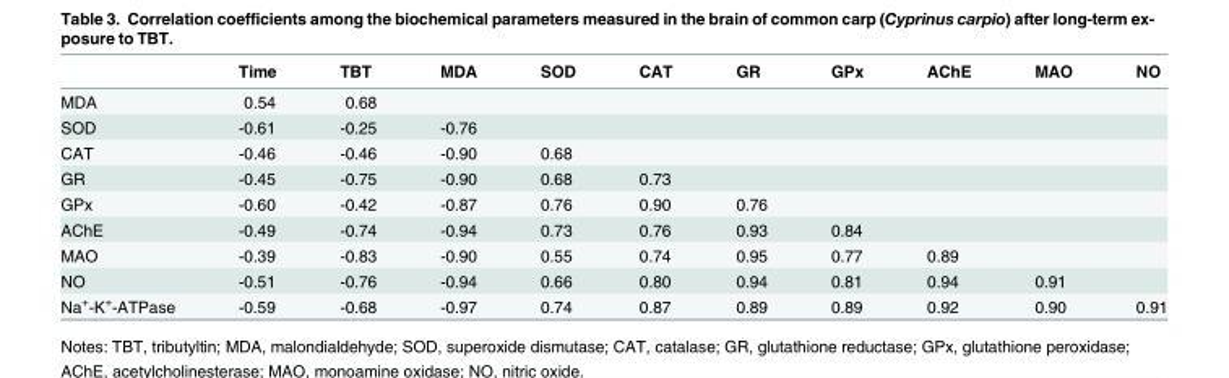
<table><thead><tr><td></td><td>Time</td><td>TBT</td><td>MDA</td><td>SOD</td><td>CAT</td><td>GR</td><td>GPx</td><td>AChE</td><td>MAO</td><td>NO</td></tr></thead><tbody><tr><td>MDA</td><td>0.54</td><td>0.68</td><td></td><td></td><td></td><td></td><td></td><td></td><td></td><td></td></tr><tr><td>SOD</td><td>-0.61</td><td>-0.25</td><td>-0.76</td><td></td><td></td><td></td><td></td><td></td><td></td><td></td></tr><tr><td>CAT</td><td>-0.46</td><td>-0.46</td><td>-0.90</td><td>0.68</td><td></td><td></td><td></td><td></td><td></td><td></td></tr><tr><td>GR</td><td>-0.45</td><td>-0.75</td><td>-0.90</td><td>0.68</td><td>0.73</td><td></td><td></td><td></td><td></td><td></td></tr><tr><td>GPx</td><td>-0.60</td><td>-0.42</td><td>-0.87</td><td>0.76</td><td>0.90</td><td>0.76</td><td></td><td></td><td></td><td></td></tr><tr><td>AChE</td><td>-0.49</td><td>-0.74</td><td>-0.94</td><td>0.73</td><td>0.76</td><td>0.93</td><td>0.84</td><td></td><td></td><td></td></tr><tr><td>MAO</td><td>-0.39</td><td>-0.83</td><td>-0.90</td><td>0.55</td><td>0.74</td><td>0.95</td><td>0.77</td><td>0.89</td><td></td><td></td></tr><tr><td>NO</td><td>-0.51</td><td>-0.76</td><td>-0.94</td><td>0.66</td><td>0.80</td><td>0.94</td><td>0.81</td><td>0.94</td><td>0.91</td><td></td></tr><tr><td>Na<sup>+</sup>-K<sup>+</sup>-ATPase</td><td>-0.59</td><td>-0.68</td><td>-0.97</td><td>0.74</td><td>0.87</td><td>0.89</td><td>0.89</td><td>0.92</td><td>0.90</td><td>0.91</td></tr></tbody></table>